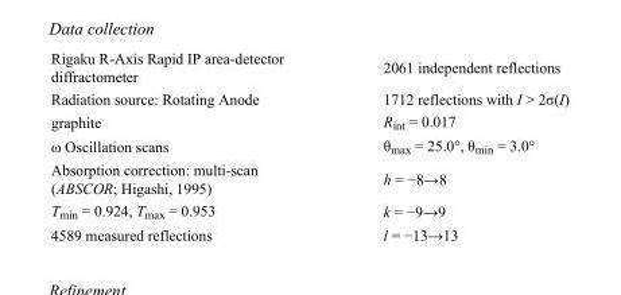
<table><tbody><tr><td>Rigaku R-Axis Rapid IP area-detector diffractometer</td><td>2061 independent reflections</td></tr><tr><td>Radiation source: Rotating Anode</td><td>1712 reflections with I &gt; 2σ(I)</td></tr><tr><td>graphite</td><td>R<sub>int</sub> = 0.017</td></tr><tr><td>ω Oscillation scans</td><td>θ<sub>max</sub> = 25.0°, θ<sub>min</sub> = 3.0°</td></tr><tr><td>Absorption correction: multi-scan (ABSCOR; Higashi, 1995)</td><td>h = −8→8</td></tr><tr><td>T<sub>min</sub> = 0.924, T<sub>max</sub> = 0.953</td><td>k = −9→9</td></tr><tr><td>4589 measured reflections</td><td>l = −13→13</td></tr></tbody></table>